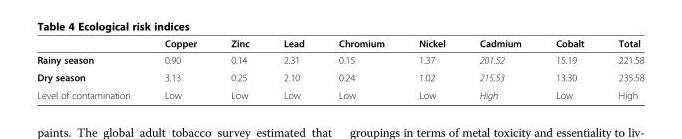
<table><thead><tr><td></td><td>Copper</td><td>Zinc</td><td>Lead</td><td>Chromium</td><td>Nickel</td><td>Cadmium</td><td>Cobalt</td><td>Total</td></tr></thead><tbody><tr><td>Rainy season</td><td>0.90</td><td>0.14</td><td>2.31</td><td>0.15</td><td>1.37</td><td>201.52</td><td>15.19</td><td>221.58</td></tr><tr><td>Dry season</td><td>3.13</td><td>0.25</td><td>2.10</td><td>0.24</td><td>1.02</td><td>215.53</td><td>13.30</td><td>235.58</td></tr><tr><td>Level of contamination</td><td>Low</td><td>Low</td><td>Low</td><td>Low</td><td>Low</td><td>High</td><td>Low</td><td>High</td></tr></tbody></table>